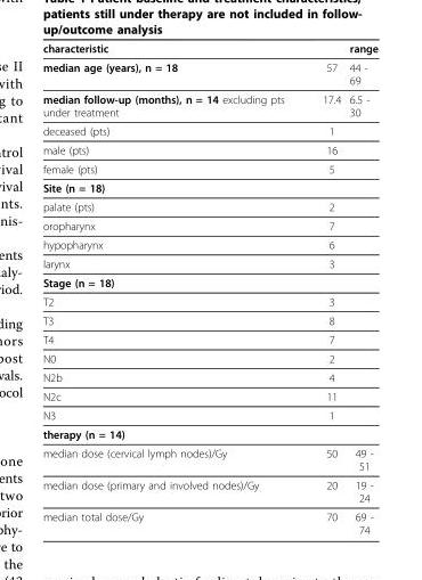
<table><thead><tr><td>characteristic</td><td></td><td>range</td></tr></thead><tbody><tr><td>median age (years), n = 18</td><td>57</td><td>44 - 69</td></tr><tr><td>median follow-up (months), n = 14 excluding pts under treatment</td><td>17.4</td><td>6.5 - 30</td></tr><tr><td>deceased (pts)</td><td>1</td><td></td></tr><tr><td>male (pts)</td><td>16</td><td></td></tr><tr><td>female (pts)</td><td>5</td><td></td></tr><tr><td colspan="3">Site (n = 18)</td></tr><tr><td>palate (pts)</td><td>2</td><td></td></tr><tr><td>oropharynx</td><td>7</td><td></td></tr><tr><td>hypopharynx</td><td>6</td><td></td></tr><tr><td>larynx</td><td>3</td><td></td></tr><tr><td colspan="3">Stage (n = 18)</td></tr><tr><td>T2</td><td>3</td><td></td></tr><tr><td>T3</td><td>8</td><td></td></tr><tr><td>T4</td><td>7</td><td></td></tr><tr><td>N0</td><td>2</td><td></td></tr><tr><td>N2b</td><td>4</td><td></td></tr><tr><td>N2c</td><td>11</td><td></td></tr><tr><td>N3</td><td>1</td><td></td></tr><tr><td colspan="3">therapy (n = 14)</td></tr><tr><td>median dose (cervical lymph nodes)/Gy</td><td>50</td><td>49 - 51</td></tr><tr><td>median dose (primary and involved nodes)/Gy</td><td>20</td><td>19 - 24</td></tr><tr><td>median total dose/Gy</td><td>70</td><td>69 - 74</td></tr></tbody></table>